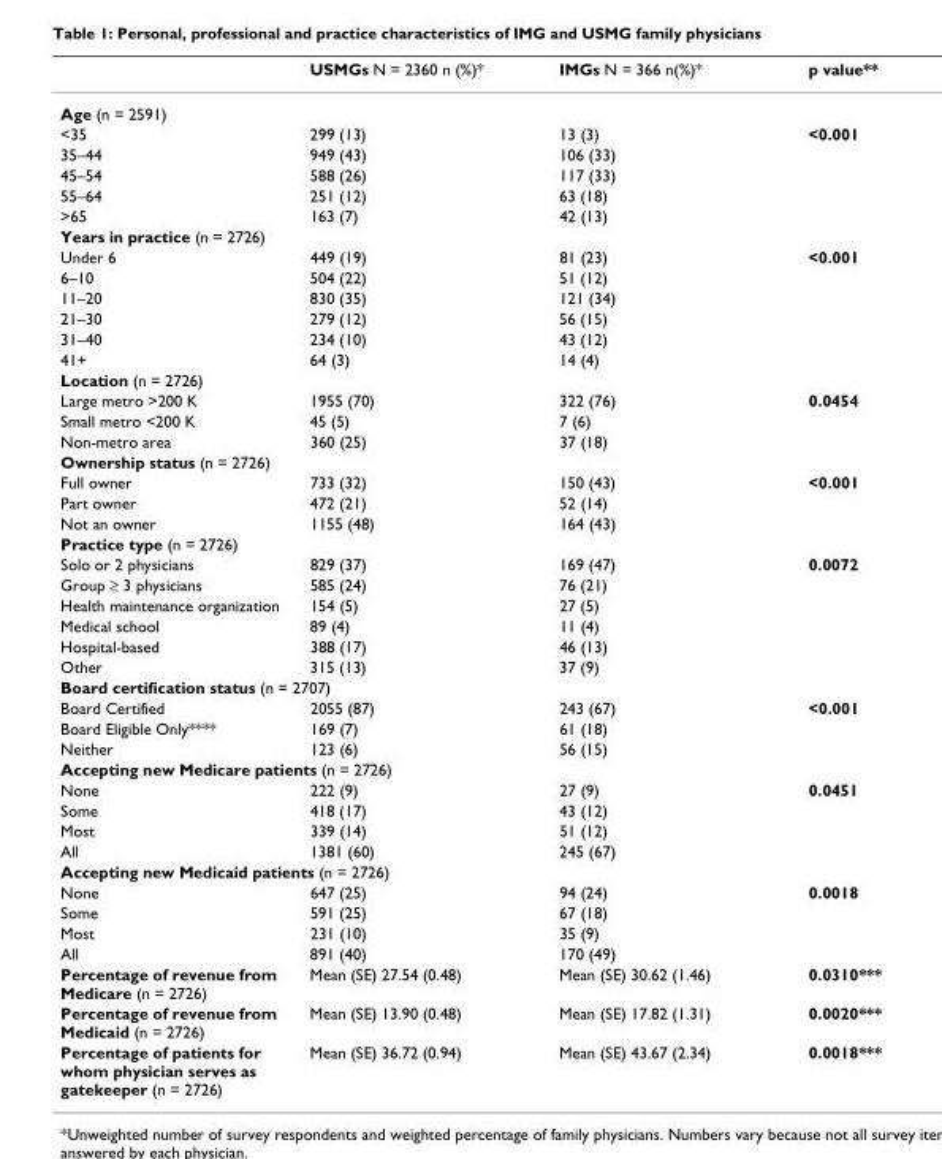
<table><thead><tr><td></td><td>USMGs N = 2360 n (%)*</td><td>IMGs N = 366 n(%)*</td><td>p value**</td></tr></thead><tbody><tr><td colspan="4">Age (n = 2591)</td></tr><tr><td>&lt;35</td><td>299 (13)</td><td>13 (3)</td><td>&lt;0.001</td></tr><tr><td>35–44</td><td>949 (43)</td><td>106 (33)</td><td></td></tr><tr><td>45–54</td><td>588 (26)</td><td>117 (33)</td><td></td></tr><tr><td>55–64</td><td>251 (12)</td><td>63 (18)</td><td></td></tr><tr><td>&gt;65</td><td>163 (7)</td><td>42 (13)</td><td></td></tr><tr><td colspan="4">Years in practice (n = 2726)</td></tr><tr><td>Under 6</td><td>449 (19)</td><td>81 (23)</td><td>&lt;0.001</td></tr><tr><td>6–10</td><td>504 (22)</td><td>51 (12)</td><td></td></tr><tr><td>11–20</td><td>830 (35)</td><td>121 (34)</td><td></td></tr><tr><td>21–30</td><td>279 (12)</td><td>56 (15)</td><td></td></tr><tr><td>31–40</td><td>234 (10)</td><td>43 (12)</td><td></td></tr><tr><td>41+</td><td>64 (3)</td><td>14 (4)</td><td></td></tr><tr><td colspan="4">Location (n = 2726)</td></tr><tr><td>Large metro &gt;200 K</td><td>1955 (70)</td><td>322 (76)</td><td>0.0454</td></tr><tr><td>Small metro &lt;200 K</td><td>45 (5)</td><td>7 (6)</td><td></td></tr><tr><td>Non-metro area</td><td>360 (25)</td><td>37 (18)</td><td></td></tr><tr><td colspan="4">Ownership status (n = 2726)</td></tr><tr><td>Full owner</td><td>733 (32)</td><td>150 (43)</td><td>&lt;0.001</td></tr><tr><td>Part owner</td><td>472 (21)</td><td>52 (14)</td><td></td></tr><tr><td>Not an owner</td><td>1155 (48)</td><td>164 (43)</td><td></td></tr><tr><td colspan="4">Practice type (n = 2726)</td></tr><tr><td>Solo or 2 physicians</td><td>829 (37)</td><td>169 (47)</td><td>0.0072</td></tr><tr><td>Group ≥ 3 physicians</td><td>585 (24)</td><td>76 (21)</td><td></td></tr><tr><td>Health maintenance organization</td><td>154 (5)</td><td>27 (5)</td><td></td></tr><tr><td>Medical school</td><td>89 (4)</td><td>11 (4)</td><td></td></tr><tr><td>Hospital-based</td><td>388 (17)</td><td>46 (13)</td><td></td></tr><tr><td>Other</td><td>315 (13)</td><td>37 (9)</td><td></td></tr><tr><td colspan="4">Board certification status (n = 2707)</td></tr><tr><td>Board Certified</td><td>2055 (87)</td><td>243 (67)</td><td>&lt;0.001</td></tr><tr><td>Board Eligible Only****</td><td>169 (7)</td><td>61 (18)</td><td></td></tr><tr><td>Neither</td><td>123 (6)</td><td>56 (15)</td><td></td></tr><tr><td colspan="4">Accepting new Medicare patients (n = 2726)</td></tr><tr><td>None</td><td>222 (9)</td><td>27 (9)</td><td>0.0451</td></tr><tr><td>Some</td><td>418 (17)</td><td>43 (12)</td><td></td></tr><tr><td>Most</td><td>339 (14)</td><td>51 (12)</td><td></td></tr><tr><td>All</td><td>1381 (60)</td><td>245 (67)</td><td></td></tr><tr><td colspan="4">Accepting new Medicaid patients (n = 2726)</td></tr><tr><td>None</td><td>647 (25)</td><td>94 (24)</td><td>0.0018</td></tr><tr><td>Some</td><td>591 (25)</td><td>67 (18)</td><td></td></tr><tr><td>Most</td><td>231 (10)</td><td>35 (9)</td><td></td></tr><tr><td>All</td><td>891 (40)</td><td>170 (49)</td><td></td></tr><tr><td>Percentage of revenue from Medicare (n = 2726)</td><td>Mean (SE) 27.54 (0.48)</td><td>Mean (SE) 30.62 (1.46)</td><td>0.0310***</td></tr><tr><td>Percentage of revenue from Medicaid (n = 2726)</td><td>Mean (SE) 13.90 (0.48)</td><td>Mean (SE) 17.82 (1.31)</td><td>0.0020***</td></tr><tr><td>Percentage of patients for whom physician serves as gatekeeper (n = 2726)</td><td>Mean (SE) 36.72 (0.94)</td><td>Mean (SE) 43.67 (2.34)</td><td>0.0018***</td></tr></tbody></table>